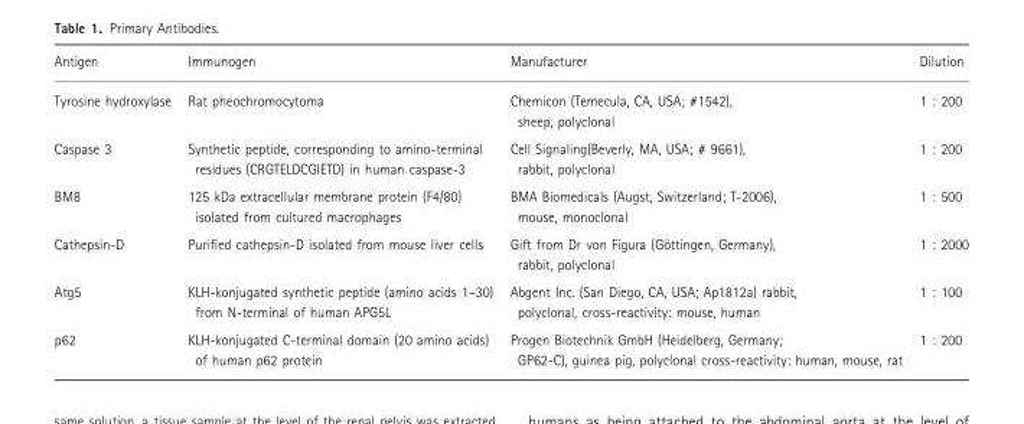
<table><thead><tr><td>Antigen</td><td>Immunogen</td><td>Manufacturer</td><td>Dilution</td></tr></thead><tbody><tr><td>Tyrosine hydroxylase</td><td>Rat pheochromocytoma</td><td>Chemicon (Temecula, CA, USA; #1542), sheep, polyclonal</td><td>1 : 200</td></tr><tr><td>Caspase 3</td><td>Synthetic peptide, corresponding to amino-terminal residues (CRGTELDCGIETD) in human caspase-3</td><td>Cell Signaling(Beverly, MA, USA; # 9661), rabbit, polyclonal</td><td>1 : 200</td></tr><tr><td>BM8</td><td>125 kDa extracellular membrane protein (F4/80) isolated from cultured macrophages</td><td>BMA Biomedicals (Augst, Switzerland; T-2006), mouse, monoclonal</td><td>1 : 500</td></tr><tr><td>Cathepsin-D</td><td>Purified cathepsin-D isolated from mouse liver cells</td><td>Gift from Dr von Figura (Go¨ttingen, Germany), rabbit, polyclonal</td><td>1 : 2000</td></tr><tr><td>Atg5</td><td>KLH-konjugated synthetic peptide (amino acids 1–30) from N-terminal of human APG5L</td><td>Abgent Inc. (San Diego, CA, USA; Ap1812a) rabbit, polyclonal, cross-reactivity: mouse, human</td><td>1 : 100</td></tr><tr><td>p62</td><td>KLH-konjugated C-terminal domain (20 amino acids) of human p62 protein</td><td>Progen Biotechnik GmbH (Heidelberg, Germany; GP62-C), guinea pig, polyclonal cross-reactivity: human, mouse, rat</td><td>1 : 200</td></tr></tbody></table>